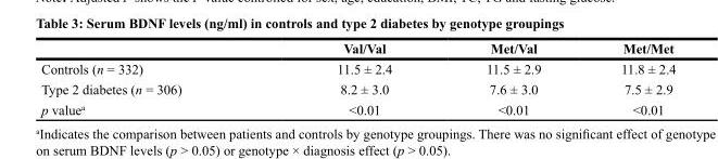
<table><thead><tr><td></td><td>Val/Val</td><td>Met/Val</td><td>Met/Met</td></tr></thead><tbody><tr><td>Controls (n = 332)</td><td>11.5 ± 2.4</td><td>11.5 ± 2.9</td><td>11.8 ± 2.4</td></tr><tr><td>Type 2 diabetes (n = 306)</td><td>8.2 ± 3.0</td><td>7.6 ± 3.0</td><td>7.5 ± 2.9</td></tr><tr><td>p value<sup>a</sup></td><td>&lt;0.01</td><td>&lt;0.01</td><td>&lt;0.01</td></tr></tbody></table>